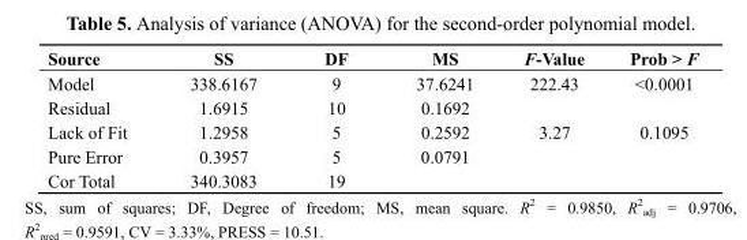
<table><thead><tr><td>Source</td><td>SS</td><td>DF</td><td>MS</td><td>F-Value</td><td>Prob &gt; F</td></tr></thead><tbody><tr><td>Model</td><td>338.6167</td><td>9</td><td>37.6241</td><td>222.43</td><td>&lt;0.0001</td></tr><tr><td>Residual</td><td>1.6915</td><td>10</td><td>0.1692</td><td></td><td></td></tr><tr><td>Lack of Fit</td><td>1.2958</td><td>5</td><td>0.2592</td><td>3.27</td><td>0.1095</td></tr><tr><td>Pure Error</td><td>0.3957</td><td>5</td><td>0.0791</td><td></td><td></td></tr><tr><td>Cor Total</td><td>340.3083</td><td>19</td><td></td><td></td><td></td></tr></tbody></table>